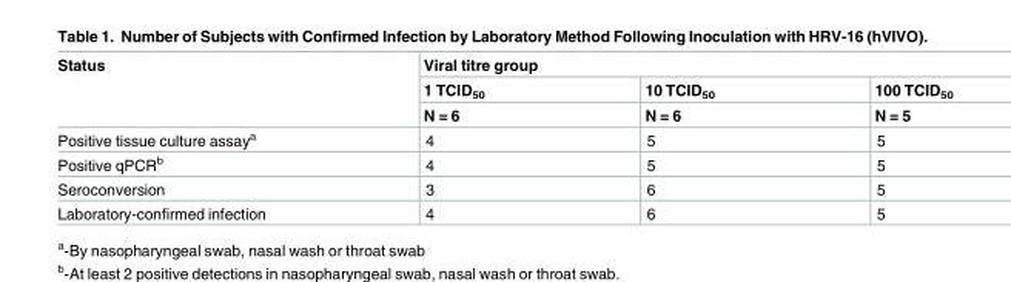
<table><thead><tr><td rowspan="3">Status</td><td colspan="3">Viral titre group</td></tr><tr><td rowspan="2">1 TCID<sub>50</sub> N = 6</td><td rowspan="2">10 TCID<sub>50</sub> N = 6</td><td rowspan="2">100 TCID<sub>50</sub> N = 5</td></tr><tr></tr></thead><tbody><tr><td>Positive tissue culture assay<sup>a</sup></td><td>4</td><td>5</td><td>5</td></tr><tr><td>Positive qPCR<sup>b</sup></td><td>4</td><td>5</td><td>5</td></tr><tr><td>Seroconversion</td><td>3</td><td>6</td><td>5</td></tr><tr><td>Laboratory-confirmed infection</td><td>4</td><td>6</td><td>5</td></tr></tbody></table>